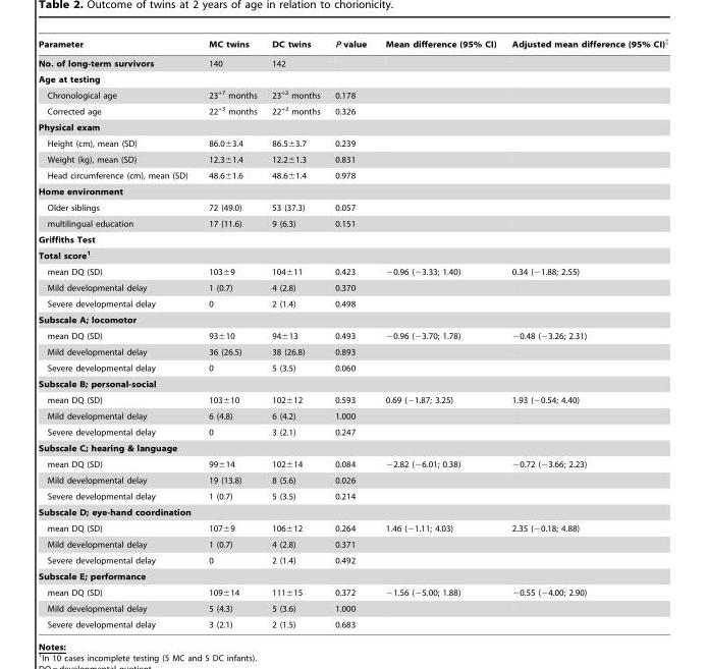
<table><thead><tr><td>Parameter</td><td>MC twins</td><td>DC twins</td><td>P value</td><td>Mean difference (95% CI)</td><td>Adjusted mean difference (95% CI)‡</td></tr></thead><tbody><tr><td>No. of long-term survivors</td><td>140</td><td>142</td><td></td><td></td><td></td></tr><tr><td colspan="6">Age at testing</td></tr><tr><td>Chronological age</td><td>23<sup>+7</sup> months</td><td>23<sup>+2</sup> months</td><td>0.178</td><td></td><td></td></tr><tr><td>Corrected age</td><td>22<sup>+3</sup> months</td><td>22<sup>+2</sup> months</td><td>0.326</td><td></td><td></td></tr><tr><td colspan="6">Physical exam</td></tr><tr><td>Height (cm), mean (SD)</td><td>86.0±3.4</td><td>86.5±3.7</td><td>0.239</td><td></td><td></td></tr><tr><td>Weight (kg), mean (SD)</td><td>12.3±1.4</td><td>12.2±1.3</td><td>0.831</td><td></td><td></td></tr><tr><td>Head circumference (cm), mean (SD)</td><td>48.6±1.6</td><td>48.6±1.4</td><td>0.978</td><td></td><td></td></tr><tr><td colspan="6">Home environment</td></tr><tr><td>Older siblings</td><td>72 (49.0)</td><td>53 (37.3)</td><td>0.057</td><td></td><td></td></tr><tr><td>multilingual education</td><td>17 (11.6)</td><td>9 (6.3)</td><td>0.151</td><td></td><td></td></tr><tr><td colspan="6">Griffiths Test</td></tr><tr><td colspan="6">Total score1</td></tr><tr><td>mean DQ (SD)</td><td>103±9</td><td>104±11</td><td>0.423</td><td>−0.96 (−3.33; 1.40)</td><td>0.34 (−1.88; 2.55)</td></tr><tr><td>Mild developmental delay</td><td>1 (0.7)</td><td>4 (2.8)</td><td>0.370</td><td></td><td></td></tr><tr><td>Severe developmental delay</td><td>0</td><td>2 (1.4)</td><td>0.498</td><td></td><td></td></tr><tr><td colspan="6">Subscale A; locomotor</td></tr><tr><td>mean DQ (SD)</td><td>93±10</td><td>94±13</td><td>0.493</td><td>−0.96 (−3.70; 1.78)</td><td>−0.48 (−3.26; 2.31)</td></tr><tr><td>Mild developmental delay</td><td>36 (26.5)</td><td>38 (26.8)</td><td>0.893</td><td></td><td></td></tr><tr><td>Severe developmental delay</td><td>0</td><td>5 (3.5)</td><td>0.060</td><td></td><td></td></tr><tr><td colspan="6">Subscale B; personal-social</td></tr><tr><td>mean DQ (SD)</td><td>103±10</td><td>102±12</td><td>0.593</td><td>0.69 (−1.87; 3.25)</td><td>1.93 (−0.54; 4.40)</td></tr><tr><td>Mild developmental delay</td><td>6 (4.8)</td><td>6 (4.2)</td><td>1.000</td><td></td><td></td></tr><tr><td>Severe developmental delay</td><td>0</td><td>3 (2.1)</td><td>0.247</td><td></td><td></td></tr><tr><td colspan="6">Subscale C; hearing &amp; language</td></tr><tr><td>mean DQ (SD)</td><td>99±14</td><td>102±14</td><td>0.084</td><td>−2.82 (−6.01; 0.38)</td><td>−0.72 (−3.66; 2.23)</td></tr><tr><td>Mild developmental delay</td><td>19 (13.8)</td><td>8 (5.6)</td><td>0.026</td><td></td><td></td></tr><tr><td>Severe developmental delay</td><td>1 (0.7)</td><td>5 (3.5)</td><td>0.214</td><td></td><td></td></tr><tr><td colspan="6">Subscale D; eye-hand coordination</td></tr><tr><td>mean DQ (SD)</td><td>107±9</td><td>106±12</td><td>0.264</td><td>1.46 (−1.11; 4.03)</td><td>2.35 (−0.18; 4.88)</td></tr><tr><td>Mild developmental delay</td><td>1 (0.7)</td><td>4 (2.8)</td><td>0.371</td><td></td><td></td></tr><tr><td>Severe developmental delay</td><td>0</td><td>2 (1.4)</td><td>0.492</td><td></td><td></td></tr><tr><td colspan="6">Subscale E; performance</td></tr><tr><td>mean DQ (SD)</td><td>109±14</td><td>111±15</td><td>0.372</td><td>−1.56 (−5.00; 1.88)</td><td>−0.55 (−4.00; 2.90)</td></tr><tr><td>Mild developmental delay</td><td>5 (4.3)</td><td>5 (3.6)</td><td>1.000</td><td></td><td></td></tr><tr><td>Severe developmental delay</td><td>3 (2.1)</td><td>2 (1.5)</td><td>0.683</td><td></td><td></td></tr></tbody></table>